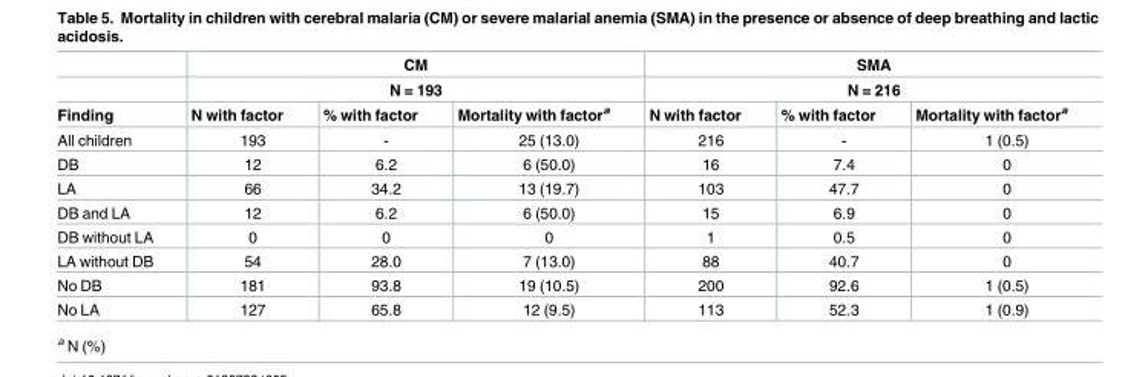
<table><thead><tr><td rowspan="3">Finding</td><td rowspan="2" colspan="3">CM N = 193</td><td rowspan="2" colspan="3">SMA N = 216</td></tr><tr></tr><tr><td>N with factor</td><td>% with factor</td><td>Mortality with factor<sup>a</sup></td><td>N with factor</td><td>% with factor</td><td>Mortality with factor<sup>a</sup></td></tr></thead><tbody><tr><td>All children</td><td>193</td><td>-</td><td>25 (13.0)</td><td>216</td><td>-</td><td>1 (0.5)</td></tr><tr><td>DB</td><td>12</td><td>6.2</td><td>6 (50.0)</td><td>16</td><td>7.4</td><td>0</td></tr><tr><td>LA</td><td>66</td><td>34.2</td><td>13 (19.7)</td><td>103</td><td>47.7</td><td>0</td></tr><tr><td>DB and LA</td><td>12</td><td>6.2</td><td>6 (50.0)</td><td>15</td><td>6.9</td><td>0</td></tr><tr><td>DB without LA</td><td>0</td><td>0</td><td>0</td><td>1</td><td>0.5</td><td>0</td></tr><tr><td>LA without DB</td><td>54</td><td>28.0</td><td>7 (13.0)</td><td>88</td><td>40.7</td><td>0</td></tr><tr><td>No DB</td><td>181</td><td>93.8</td><td>19 (10.5)</td><td>200</td><td>92.6</td><td>1 (0.5)</td></tr><tr><td>No LA</td><td>127</td><td>65.8</td><td>12 (9.5)</td><td>113</td><td>52.3</td><td>1 (0.9)</td></tr></tbody></table>